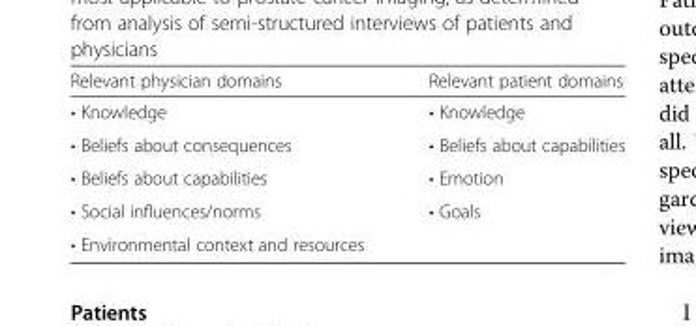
<table><thead><tr><td>Relevant physician domains</td><td>Relevant patient domains</td></tr></thead><tbody><tr><td>• Knowledge</td><td>• Knowledge</td></tr><tr><td>• Beliefs about consequences</td><td>• Beliefs about capabilities</td></tr><tr><td>• Beliefs about capabilities</td><td>• Emotion</td></tr><tr><td>• Social influences/norms</td><td>• Goals</td></tr><tr><td>• Environmental context and resources</td><td></td></tr></tbody></table>